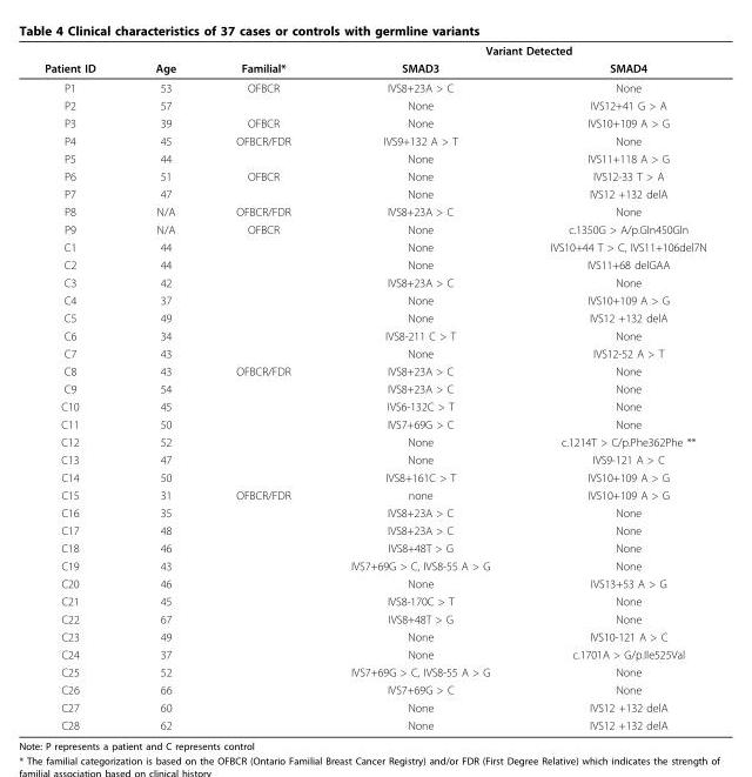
<table><thead><tr><td rowspan="2">Patient ID</td><td rowspan="2">Age</td><td rowspan="2">Familial*</td><td colspan="2">Variant Detected</td></tr><tr><td>SMAD3</td><td>SMAD4</td></tr></thead><tbody><tr><td>P1</td><td>53</td><td>OFBCR</td><td>IVS8+23A &gt; C</td><td>None</td></tr><tr><td>P2</td><td>57</td><td></td><td>None</td><td>IVS12+41 G &gt; A</td></tr><tr><td>P3</td><td>39</td><td>OFBCR</td><td>None</td><td>IVS10+109 A &gt; G</td></tr><tr><td>P4</td><td>45</td><td>OFBCR/FDR</td><td>IVS9+132 A &gt; T</td><td>None</td></tr><tr><td>P5</td><td>44</td><td></td><td>None</td><td>IVS11+118 A &gt; G</td></tr><tr><td>P6</td><td>51</td><td>OFBCR</td><td>None</td><td>IVS12-33 T &gt; A</td></tr><tr><td>P7</td><td>47</td><td></td><td>None</td><td>IVS12 +132 delA</td></tr><tr><td>P8</td><td>N/A</td><td>OFBCR/FDR</td><td>IVS8+23A &gt; C</td><td>None</td></tr><tr><td>P9</td><td>N/A</td><td>OFBCR</td><td>None</td><td>c.1350G &gt; A/p.Gln450Gln</td></tr><tr><td>C1</td><td>44</td><td></td><td>None</td><td>IVS10+44 T &gt; C, IVS11+106del7N</td></tr><tr><td>C2</td><td>44</td><td></td><td>None</td><td>IVS11+68 delGAA</td></tr><tr><td>C3</td><td>42</td><td></td><td>IVS8+23A &gt; C</td><td>None</td></tr><tr><td>C4</td><td>37</td><td></td><td>None</td><td>IVS10+109 A &gt; G</td></tr><tr><td>C5</td><td>49</td><td></td><td>None</td><td>IVS12 +132 delA</td></tr><tr><td>C6</td><td>34</td><td></td><td>IVS8-211 C &gt; T</td><td>None</td></tr><tr><td>C7</td><td>43</td><td></td><td>None</td><td>IVS12-52 A &gt; T</td></tr><tr><td>C8</td><td>43</td><td>OFBCR/FDR</td><td>IVS8+23A &gt; C</td><td>None</td></tr><tr><td>C9</td><td>54</td><td></td><td>IVS8+23A &gt; C</td><td>None</td></tr><tr><td>C10</td><td>45</td><td></td><td>IVS6-132C &gt; T</td><td>None</td></tr><tr><td>C11</td><td>50</td><td></td><td>IVS7+69G &gt; C</td><td>None</td></tr><tr><td>C12</td><td>52</td><td></td><td>None</td><td>c.1214T &gt; C/p.Phe362Phe **</td></tr><tr><td>C13</td><td>47</td><td></td><td>None</td><td>IVS9-121 A &gt; C</td></tr><tr><td>C14</td><td>50</td><td></td><td>IVS8+161C &gt; T</td><td>IVS10+109 A &gt; G</td></tr><tr><td>C15</td><td>31</td><td>OFBCR/FDR</td><td>none</td><td>IVS10+109 A &gt; G</td></tr><tr><td>C16</td><td>35</td><td></td><td>IVS8+23A &gt; C</td><td>None</td></tr><tr><td>C17</td><td>48</td><td></td><td>IVS8+23A &gt; C</td><td>None</td></tr><tr><td>C18</td><td>46</td><td></td><td>IVS8+48T &gt; G</td><td>None</td></tr><tr><td>C19</td><td>43</td><td></td><td>IVS7+69G &gt; C, IVS8-55 A &gt; G</td><td>None</td></tr><tr><td>C20</td><td>46</td><td></td><td>None</td><td>IVS13+53 A &gt; G</td></tr><tr><td>C21</td><td>45</td><td></td><td>IVS8-170C &gt; T</td><td>None</td></tr><tr><td>C22</td><td>67</td><td></td><td>IVS8+48T &gt; G</td><td>None</td></tr><tr><td>C23</td><td>49</td><td></td><td>None</td><td>IVS10-121 A &gt; C</td></tr><tr><td>C24</td><td>37</td><td></td><td>None</td><td>c.1701A &gt; G/p.Ile525Val</td></tr><tr><td>C25</td><td>52</td><td></td><td>IVS7+69G &gt; C, IVS8-55 A &gt; G</td><td>None</td></tr><tr><td>C26</td><td>66</td><td></td><td>IVS7+69G &gt; C</td><td>None</td></tr><tr><td>C27</td><td>60</td><td></td><td>None</td><td>IVS12 +132 delA</td></tr><tr><td>C28</td><td>62</td><td></td><td>None</td><td>IVS12 +132 delA</td></tr></tbody></table>